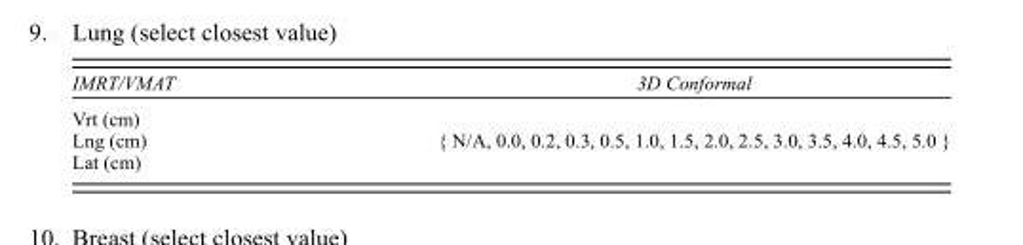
<table><thead><tr><td>IMRT/VMAT</td><td>3D Conformal</td></tr></thead><tbody><tr><td colspan="2">Vrt (cm)</td></tr><tr><td>Lng (cm)</td><td>{ N/A, 0.0, 0.2, 0.3, 0.5, 1.0, 1.5, 2.0, 2.5, 3.0, 3.5, 4.0, 4.5, 5.0 }</td></tr><tr><td>Lat (cm)</td><td></td></tr></tbody></table>